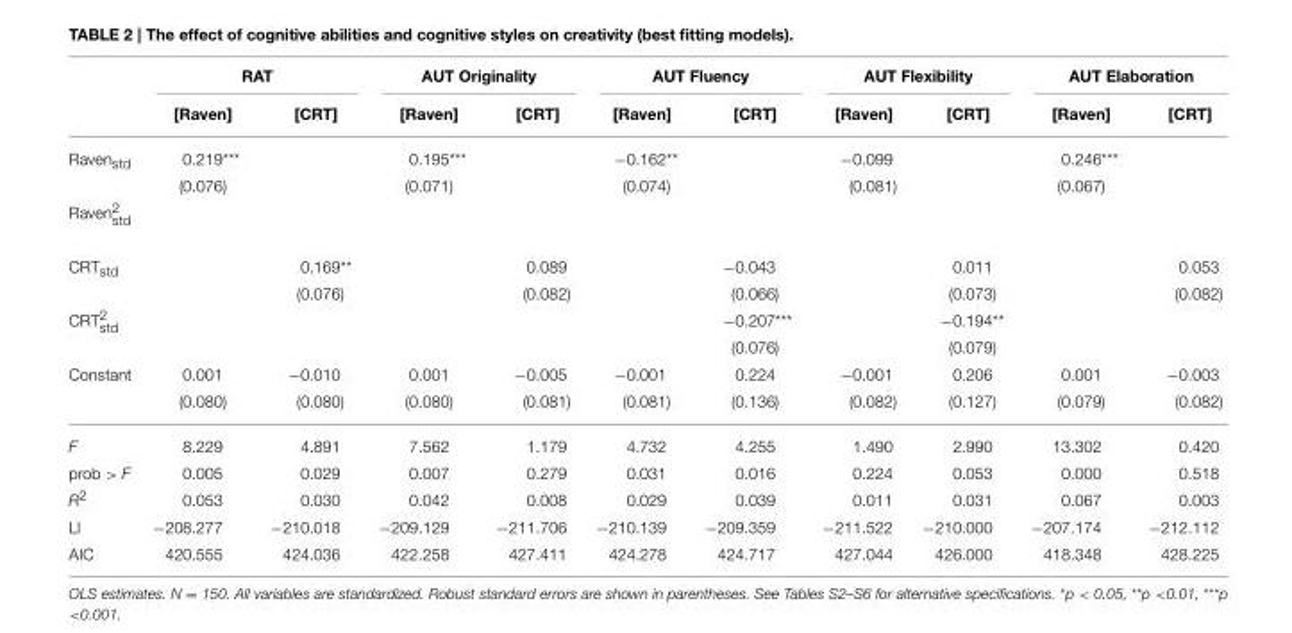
<table><thead><tr><td rowspan="2"></td><td colspan="2">RAT</td><td colspan="2">AUT Originality</td><td colspan="2">AUT Fluency</td><td colspan="2">AUT Flexibility</td><td colspan="2">AUT Elaboration</td></tr><tr><td>[Raven]</td><td>[CRT]</td><td>[Raven]</td><td>[CRT]</td><td>[Raven]</td><td>[CRT]</td><td>[Raven]</td><td>[CRT]</td><td>[Raven]</td><td>[CRT]</td></tr></thead><tbody><tr><td rowspan="2">Raven<sub>std</sub></td><td>0.219***</td><td></td><td>0.195***</td><td></td><td>−0.162**</td><td></td><td>−0.099</td><td></td><td>0.246***</td><td></td></tr><tr><td>(0.076)</td><td></td><td>(0.071)</td><td></td><td>(0.074)</td><td></td><td>(0.081)</td><td></td><td>(0.067)</td><td></td></tr><tr><td colspan="11">Raven<sup>2</sup> <sub>std</sub></td></tr><tr><td rowspan="2">CRT<sub>std</sub></td><td></td><td>0.169**</td><td></td><td>0.089</td><td></td><td>−0.043</td><td></td><td>0.011</td><td></td><td>0.053</td></tr><tr><td></td><td>(0.076)</td><td></td><td>(0.082)</td><td></td><td>(0.066)</td><td></td><td>(0.073)</td><td></td><td>(0.082)</td></tr><tr><td rowspan="2">CRT<sup>2</sup> <sub>std</sub></td><td></td><td></td><td></td><td></td><td></td><td>−0.207***</td><td></td><td>−0.194**</td><td></td><td></td></tr><tr><td></td><td></td><td></td><td></td><td></td><td>(0.076)</td><td></td><td>(0.079)</td><td></td><td></td></tr><tr><td rowspan="2">Constant</td><td>0.001</td><td>−0.010</td><td>0.001</td><td>−0.005</td><td>−0.001</td><td>0.224</td><td>−0.001</td><td>0.206</td><td>0.001</td><td>−0.003</td></tr><tr><td>(0.080)</td><td>(0.080)</td><td>(0.080)</td><td>(0.081)</td><td>(0.081)</td><td>(0.136)</td><td>(0.082)</td><td>(0.127)</td><td>(0.079)</td><td>(0.082)</td></tr><tr><td>F</td><td>8.229</td><td>4.891</td><td>7.562</td><td>1.179</td><td>4.732</td><td>4.255</td><td>1.490</td><td>2.990</td><td>13.302</td><td>0.420</td></tr><tr><td>prob &gt; F</td><td>0.005</td><td>0.029</td><td>0.007</td><td>0.279</td><td>0.031</td><td>0.016</td><td>0.224</td><td>0.053</td><td>0.000</td><td>0.518</td></tr><tr><td>R<sup>2</sup></td><td>0.053</td><td>0.030</td><td>0.042</td><td>0.008</td><td>0.029</td><td>0.039</td><td>0.011</td><td>0.031</td><td>0.067</td><td>0.003</td></tr><tr><td>Ll</td><td>−208.277</td><td>−210.018</td><td>−209.129</td><td>−211.706</td><td>−210.139</td><td>−209.359</td><td>−211.522</td><td>−210.000</td><td>−207.174</td><td>−212.112</td></tr><tr><td>AIC</td><td>420.555</td><td>424.036</td><td>422.258</td><td>427.411</td><td>424.278</td><td>424.717</td><td>427.044</td><td>426.000</td><td>418.348</td><td>428.225</td></tr></tbody></table>